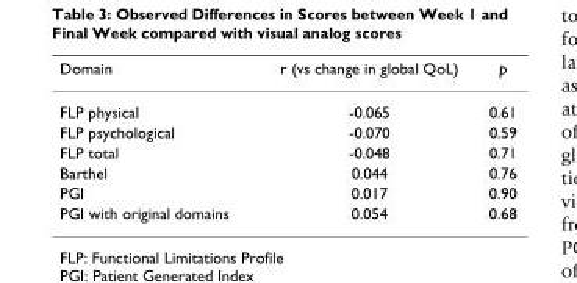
<table><thead><tr><td>Domain</td><td>r (vs change in global QoL)</td><td>p</td></tr></thead><tbody><tr><td>FLP physical</td><td>-0.065</td><td>0.61</td></tr><tr><td>FLP psychological</td><td>-0.070</td><td>0.59</td></tr><tr><td>FLP total</td><td>-0.048</td><td>0.71</td></tr><tr><td>Barthel</td><td>0.044</td><td>0.76</td></tr><tr><td>PGI</td><td>0.017</td><td>0.90</td></tr><tr><td>PGI with original domains</td><td>0.054</td><td>0.68</td></tr></tbody></table>